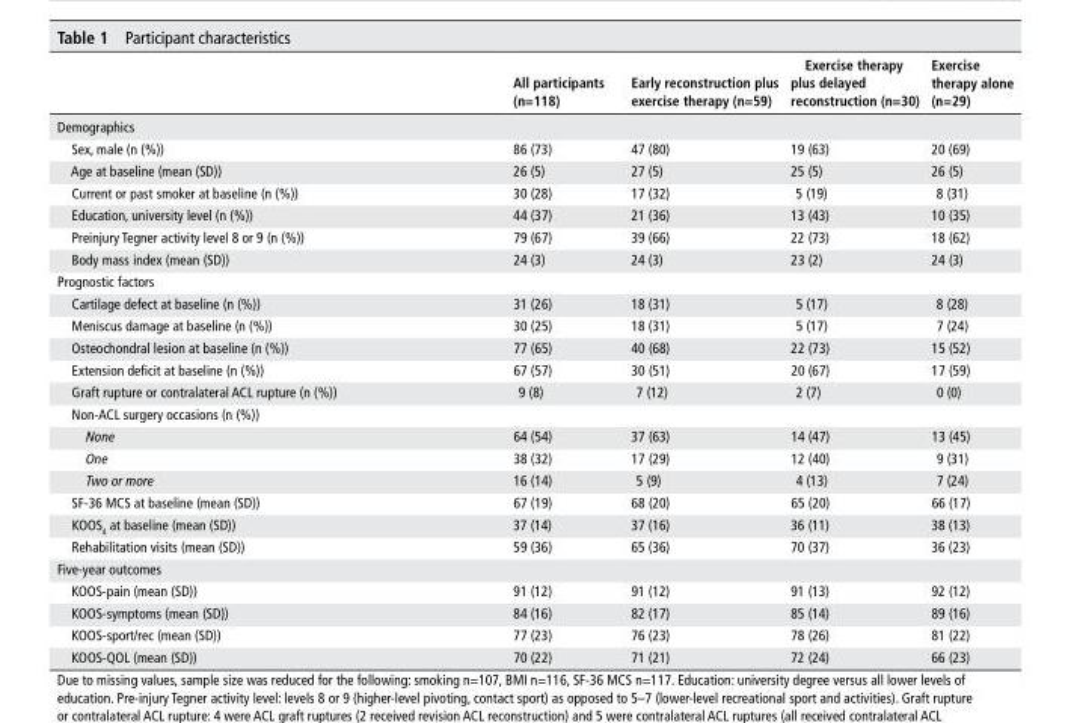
<table><thead><tr><td></td><td>All participants (n=118)</td><td>early reconstruction plus exercise therapy (n=59)</td><td>exercise therapy plus delayed reconstruction (n=30)</td><td>exercise therapy alone (n=29)</td></tr></thead><tbody><tr><td colspan="5">Demographics</td></tr><tr><td>Sex, male (n (%))</td><td>86 (73)</td><td>47 (80)</td><td>19 (63)</td><td>20 (69)</td></tr><tr><td>Age at baseline (mean (SD))</td><td>26 (5)</td><td>27 (5)</td><td>25 (5)</td><td>26 (5)</td></tr><tr><td>Current or past smoker at baseline (n (%))</td><td>30 (28)</td><td>17 (32)</td><td>5 (19)</td><td>8 (31)</td></tr><tr><td>Education, university level (n (%))</td><td>44 (37)</td><td>21 (36)</td><td>13 (43)</td><td>10 (35)</td></tr><tr><td>Preinjury Tegner activity level 8 or 9 (n (%))</td><td>79 (67)</td><td>39 (66)</td><td>22 (73)</td><td>18 (62)</td></tr><tr><td>Body mass index (mean (SD))</td><td>24 (3)</td><td>24 (3)</td><td>23 (2)</td><td>24 (3)</td></tr><tr><td colspan="5">Prognostic factors</td></tr><tr><td>Cartilage defect at baseline (n (%))</td><td>31 (26)</td><td>18 (31)</td><td>5 (17)</td><td>8 (28)</td></tr><tr><td>Meniscus damage at baseline (n (%))</td><td>30 (25)</td><td>18 (31)</td><td>5 (17)</td><td>7 (24)</td></tr><tr><td>Osteochondral lesion at baseline (n (%))</td><td>77 (65)</td><td>40 (68)</td><td>22 (73)</td><td>15 (52)</td></tr><tr><td>Extension deficit at baseline (n (%))</td><td>67 (57)</td><td>30 (51)</td><td>20 (67)</td><td>17 (59)</td></tr><tr><td>Graft rupture or contralateral ACL rupture (n (%))</td><td>9 (8)</td><td>7 (12)</td><td>2 (7)</td><td>0 (0)</td></tr><tr><td colspan="5">Non-ACL surgery occasions (n (%))</td></tr><tr><td>None</td><td>64 (54)</td><td>37 (63)</td><td>14 (47)</td><td>13 (45)</td></tr><tr><td>One</td><td>38 (32)</td><td>17 (29)</td><td>12 (40)</td><td>9 (31)</td></tr><tr><td>Two or more</td><td>16 (14)</td><td>5 (9)</td><td>4 (13)</td><td>7 (24)</td></tr><tr><td>SF-36 MCS at baseline (mean (SD))</td><td>67 (19)</td><td>68 (20)</td><td>65 (20)</td><td>66 (17)</td></tr><tr><td>KOOS<sub>4</sub> at baseline (mean (SD))</td><td>37 (14)</td><td>37 (16)</td><td>36 (11)</td><td>38 (13)</td></tr><tr><td>Rehabilitation visits (mean (SD))</td><td>59 (36)</td><td>65 (36)</td><td>70 (37)</td><td>36 (23)</td></tr><tr><td colspan="5">Five-year outcomes</td></tr><tr><td>KOOS-pain (mean (SD))</td><td>91 (12)</td><td>91 (12)</td><td>91 (13)</td><td>92 (12)</td></tr><tr><td>KOOS-symptoms (mean (SD))</td><td>84 (16)</td><td>82 (17)</td><td>85 (14)</td><td>89 (16)</td></tr><tr><td>KOOS-sport/rec (mean (SD))</td><td>77 (23)</td><td>76 (23)</td><td>78 (26)</td><td>81 (22)</td></tr><tr><td>KOOS-QOL (mean (SD))</td><td>70 (22)</td><td>71 (21)</td><td>72 (24)</td><td>66 (23)</td></tr></tbody></table>